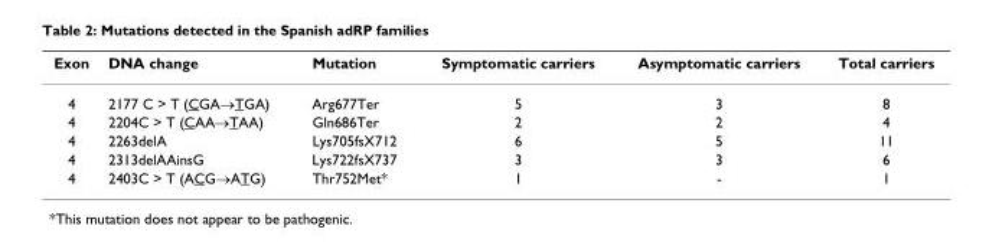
<table><thead><tr><td>Exon</td><td>DNA change</td><td>Mutation</td><td>Symptomatic carriers</td><td>Asymptomatic carriers</td><td>Total carriers</td></tr></thead><tbody><tr><td>4</td><td>2177 C &gt; T (CGA→TGA)</td><td>Arg677Ter</td><td>5</td><td>3</td><td>8</td></tr><tr><td>4</td><td>2204C &gt; T (CAA→TAA)</td><td>Gln686Ter</td><td>2</td><td>2</td><td>4</td></tr><tr><td>4</td><td>2263delA</td><td>Lys705fsX712</td><td>6</td><td>5</td><td>11</td></tr><tr><td>4</td><td>2313delAAinsG</td><td>Lys722fsX737</td><td>3</td><td>3</td><td>6</td></tr><tr><td>4</td><td>2403C &gt; T (ACG→ATG)</td><td>Thr752Met*</td><td>1</td><td>-</td><td>1</td></tr></tbody></table>